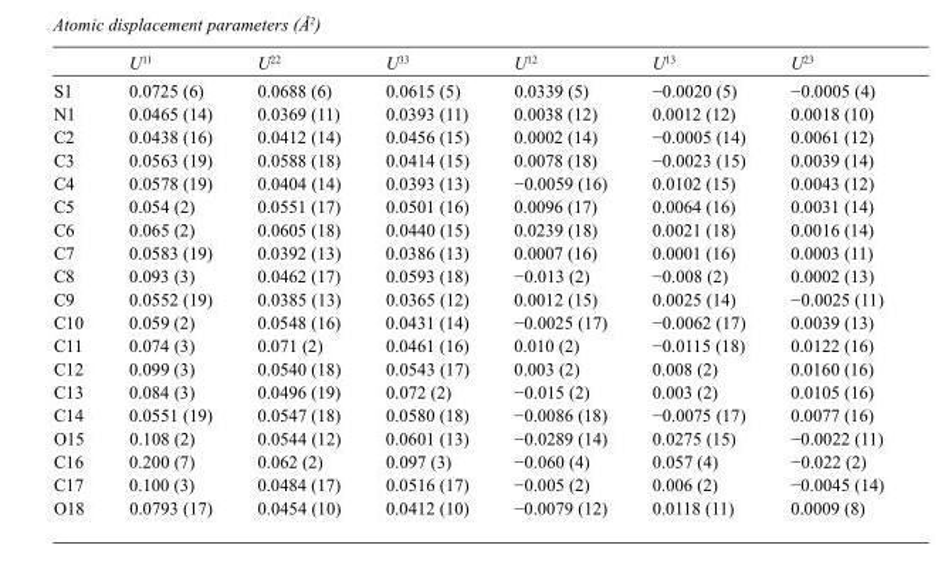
<table><thead><tr><td></td><td>U<sup>11</sup></td><td>U<sup>22</sup></td><td>U<sup>33</sup></td><td>U<sup>12</sup></td><td>U<sup>13</sup></td><td>U<sup>23</sup></td></tr></thead><tbody><tr><td>S1</td><td>0.0725 (6)</td><td>0.0688 (6)</td><td>0.0615 (5)</td><td>0.0339 (5)</td><td>−0.0020 (5)</td><td>−0.0005 (4)</td></tr><tr><td>N1</td><td>0.0465 (14)</td><td>0.0369 (11)</td><td>0.0393 (11)</td><td>0.0038 (12)</td><td>0.0012 (12)</td><td>0.0018 (10)</td></tr><tr><td>C2</td><td>0.0438 (16)</td><td>0.0412 (14)</td><td>0.0456 (15)</td><td>0.0002 (14)</td><td>−0.0005 (14)</td><td>0.0061 (12)</td></tr><tr><td>C3</td><td>0.0563 (19)</td><td>0.0588 (18)</td><td>0.0414 (15)</td><td>0.0078 (18)</td><td>−0.0023 (15)</td><td>0.0039 (14)</td></tr><tr><td>C4</td><td>0.0578 (19)</td><td>0.0404 (14)</td><td>0.0393 (13)</td><td>−0.0059 (16)</td><td>0.0102 (15)</td><td>0.0043 (12)</td></tr><tr><td>C5</td><td>0.054 (2)</td><td>0.0551 (17)</td><td>0.0501 (16)</td><td>0.0096 (17)</td><td>0.0064 (16)</td><td>0.0031 (14)</td></tr><tr><td>C6</td><td>0.065 (2)</td><td>0.0605 (18)</td><td>0.0440 (15)</td><td>0.0239 (18)</td><td>0.0021 (18)</td><td>0.0016 (14)</td></tr><tr><td>C7</td><td>0.0583 (19)</td><td>0.0392 (13)</td><td>0.0386 (13)</td><td>0.0007 (16)</td><td>0.0001 (16)</td><td>0.0003 (11)</td></tr><tr><td>C8</td><td>0.093 (3)</td><td>0.0462 (17)</td><td>0.0593 (18)</td><td>−0.013 (2)</td><td>−0.008 (2)</td><td>0.0002 (13)</td></tr><tr><td>C9</td><td>0.0552 (19)</td><td>0.0385 (13)</td><td>0.0365 (12)</td><td>0.0012 (15)</td><td>0.0025 (14)</td><td>−0.0025 (11)</td></tr><tr><td>C10</td><td>0.059 (2)</td><td>0.0548 (16)</td><td>0.0431 (14)</td><td>−0.0025 (17)</td><td>−0.0062 (17)</td><td>0.0039 (13)</td></tr><tr><td>C11</td><td>0.074 (3)</td><td>0.071 (2)</td><td>0.0461 (16)</td><td>0.010 (2)</td><td>−0.0115 (18)</td><td>0.0122 (16)</td></tr><tr><td>C12</td><td>0.099 (3)</td><td>0.0540 (18)</td><td>0.0543 (17)</td><td>0.003 (2)</td><td>0.008 (2)</td><td>0.0160 (16)</td></tr><tr><td>C13</td><td>0.084 (3)</td><td>0.0496 (19)</td><td>0.072 (2)</td><td>−0.015 (2)</td><td>0.003 (2)</td><td>0.0105 (16)</td></tr><tr><td>C14</td><td>0.0551 (19)</td><td>0.0547 (18)</td><td>0.0580 (18)</td><td>−0.0086 (18)</td><td>−0.0075 (17)</td><td>0.0077 (16)</td></tr><tr><td>O15</td><td>0.108 (2)</td><td>0.0544 (12)</td><td>0.0601 (13)</td><td>−0.0289 (14)</td><td>0.0275 (15)</td><td>−0.0022 (11)</td></tr><tr><td>C16</td><td>0.200 (7)</td><td>0.062 (2)</td><td>0.097 (3)</td><td>−0.060 (4)</td><td>0.057 (4)</td><td>−0.022 (2)</td></tr><tr><td>C17</td><td>0.100 (3)</td><td>0.0484 (17)</td><td>0.0516 (17)</td><td>−0.005 (2)</td><td>0.006 (2)</td><td>−0.0045 (14)</td></tr><tr><td>O18</td><td>0.0793 (17)</td><td>0.0454 (10)</td><td>0.0412 (10)</td><td>−0.0079 (12)</td><td>0.0118 (11)</td><td>0.0009 (8)</td></tr></tbody></table>